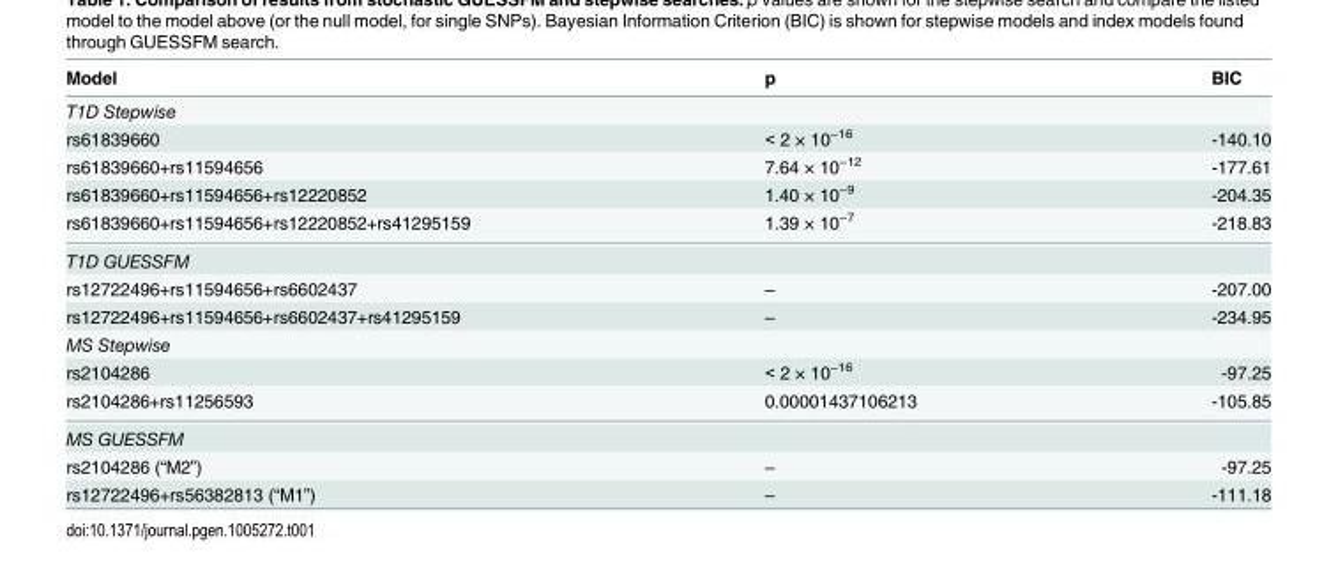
<table><thead><tr><td>Model</td><td>p</td><td>BIC</td></tr></thead><tbody><tr><td colspan="3">T1D Stepwise</td></tr><tr><td>rs61839660</td><td>&lt; 2 × 10<sup>−16</sup></td><td>-140.10</td></tr><tr><td>rs61839660+rs11594656</td><td>7.64 × 10<sup>−12</sup></td><td>-177.61</td></tr><tr><td>rs61839660+rs11594656+rs12220852</td><td>1.40 × 10<sup>−9</sup></td><td>-204.35</td></tr><tr><td>rs61839660+rs11594656+rs12220852+rs41295159</td><td>1.39 × 10<sup>−7</sup></td><td>-218.83</td></tr><tr><td colspan="3">T1D GUESSFM</td></tr><tr><td>rs12722496+rs11594656+rs6602437</td><td>–</td><td>-207.00</td></tr><tr><td>rs12722496+rs11594656+rs6602437+rs41295159</td><td>–</td><td>-234.95</td></tr><tr><td colspan="3">MS Stepwise</td></tr><tr><td>rs2104286</td><td>&lt; 2 × 10<sup>−16</sup></td><td>-97.25</td></tr><tr><td>rs2104286+rs11256593</td><td>0.00001437106213</td><td>-105.85</td></tr><tr><td colspan="3">MS GUESSFM</td></tr><tr><td>rs2104286 (“M2”)</td><td>–</td><td>-97.25</td></tr><tr><td>rs12722496+rs56382813 (“M1”)</td><td>–</td><td>-111.18</td></tr></tbody></table>